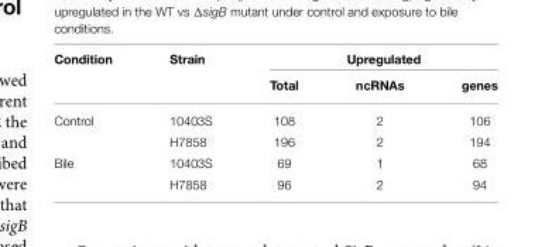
<table><thead><tr><td rowspan="2">Condition</td><td rowspan="2">Strain</td><td colspan="3">Upregulated</td></tr><tr><td>Total</td><td>ncRNAs</td><td>genes</td></tr></thead><tbody><tr><td rowspan="2">Control</td><td>10403S</td><td>108</td><td>2</td><td>106</td></tr><tr><td>H7858</td><td>196</td><td>2</td><td>194</td></tr><tr><td rowspan="2">Bile</td><td>10403S</td><td>69</td><td>1</td><td>68</td></tr><tr><td>H7858</td><td>96</td><td>2</td><td>94</td></tr></tbody></table>